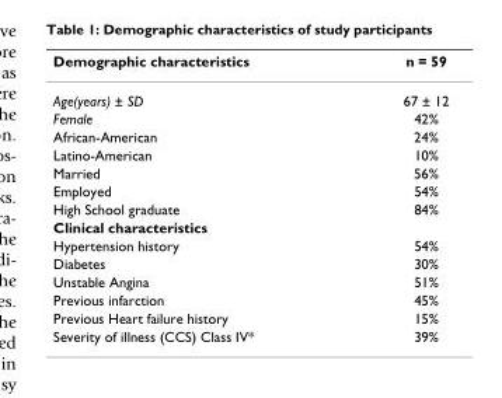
<table><thead><tr><td>Demographic characteristics</td><td>n = 59</td></tr></thead><tbody><tr><td>Age(years) ± SD</td><td>67 ± 12</td></tr><tr><td>Female</td><td>42%</td></tr><tr><td>African-American</td><td>24%</td></tr><tr><td>Latino-American</td><td>10%</td></tr><tr><td>Married</td><td>56%</td></tr><tr><td>Employed</td><td>54%</td></tr><tr><td>High School graduate</td><td>84%</td></tr><tr><td colspan="2">Clinical characteristics</td></tr><tr><td>Hypertension history</td><td>54%</td></tr><tr><td>Diabetes</td><td>30%</td></tr><tr><td>Unstable Angina</td><td>51%</td></tr><tr><td>Previous infarction</td><td>45%</td></tr><tr><td>Previous Heart failure history</td><td>15%</td></tr><tr><td>Severity of illness (CCS) Class IV*</td><td>39%</td></tr></tbody></table>